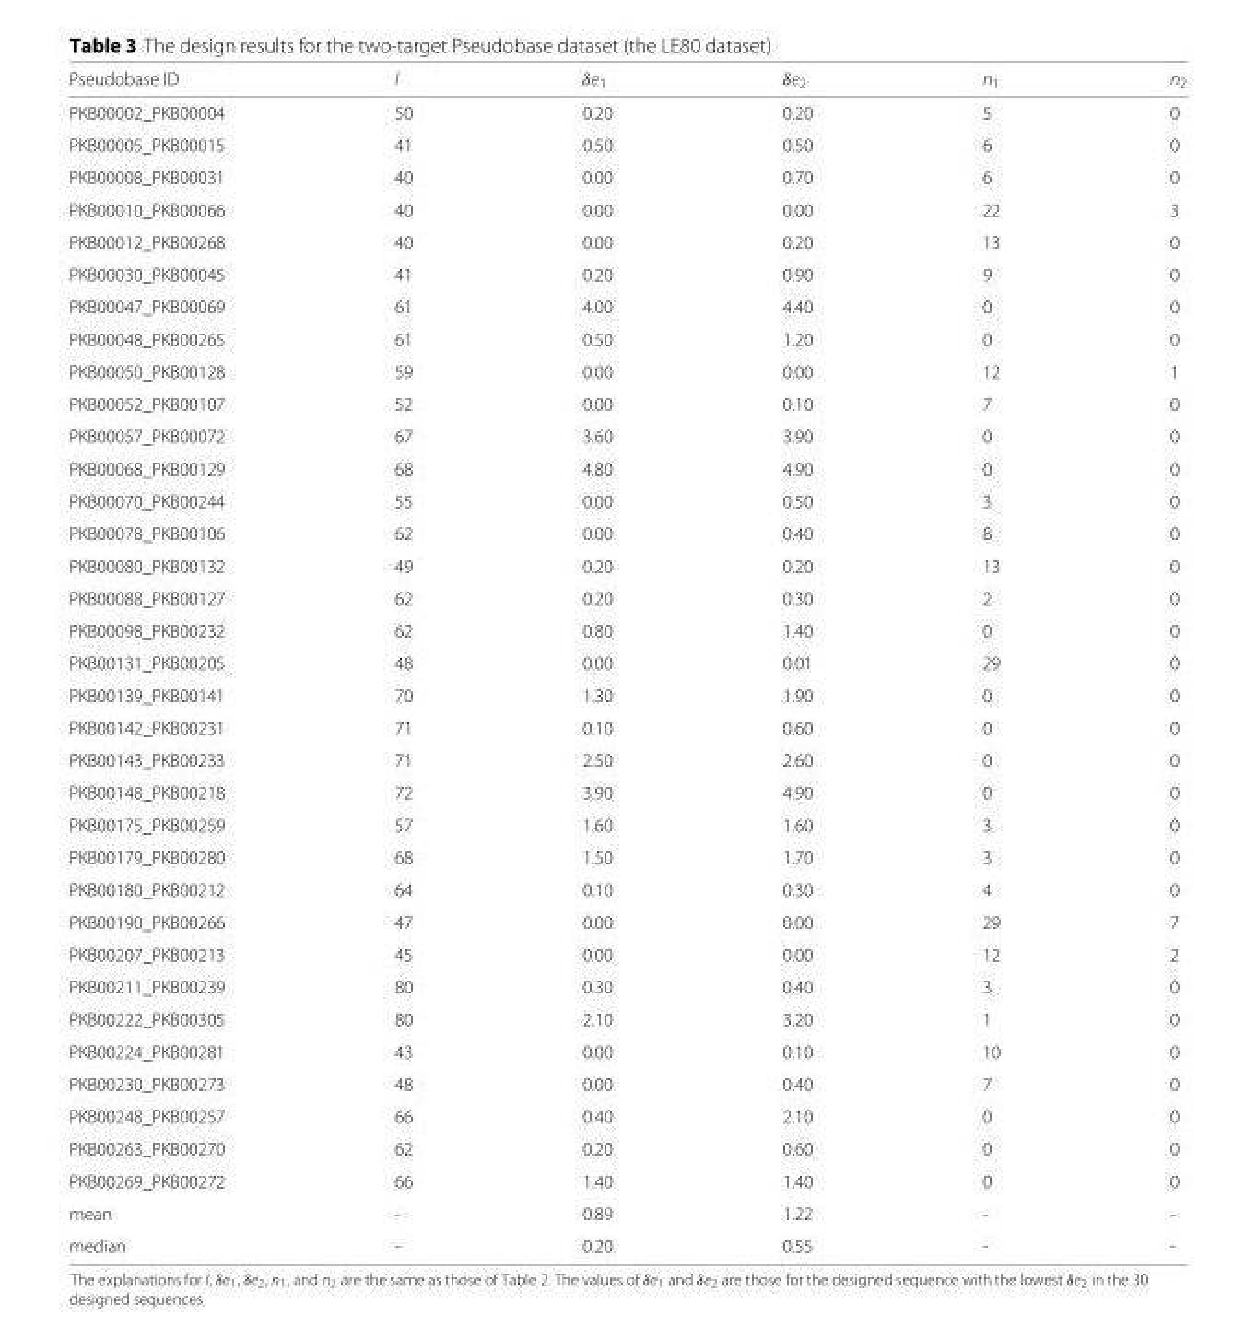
<table><thead><tr><td>Pseudobase ID</td><td>l</td><td>δe<sub>1</sub></td><td>δe<sub>2</sub></td><td>n<sub>1</sub></td><td>n<sub>2</sub></td></tr></thead><tbody><tr><td>PKB00002_PKB00004</td><td>50</td><td>0.20</td><td>0.20</td><td>5</td><td>0</td></tr><tr><td>PKB00005_PKB00015</td><td>41</td><td>0.50</td><td>0.50</td><td>6</td><td>0</td></tr><tr><td>PKB00008_PKB00031</td><td>40</td><td>0.00</td><td>0.70</td><td>6</td><td>0</td></tr><tr><td>PKB00010_PKB00066</td><td>40</td><td>0.00</td><td>0.00</td><td>22</td><td>3</td></tr><tr><td>PKB00012_PKB00268</td><td>40</td><td>0.00</td><td>0.20</td><td>13</td><td>0</td></tr><tr><td>PKB00030_PKB00045</td><td>41</td><td>0.20</td><td>0.90</td><td>9</td><td>0</td></tr><tr><td>PKB00047_PKB00069</td><td>61</td><td>4.00</td><td>4.40</td><td>0</td><td>0</td></tr><tr><td>PKB00048_PKB00265</td><td>61</td><td>0.50</td><td>1.20</td><td>0</td><td>0</td></tr><tr><td>PKB00050_PKB00128</td><td>59</td><td>0.00</td><td>0.00</td><td>12</td><td>1</td></tr><tr><td>PKB00052_PKB00107</td><td>52</td><td>0.00</td><td>0.10</td><td>7</td><td>0</td></tr><tr><td>PKB00057_PKB00072</td><td>67</td><td>3.60</td><td>3.90</td><td>0</td><td>0</td></tr><tr><td>PKB00068_PKB00129</td><td>68</td><td>4.80</td><td>4.90</td><td>0</td><td>0</td></tr><tr><td>PKB00070_PKB00244</td><td>55</td><td>0.00</td><td>0.50</td><td>3</td><td>0</td></tr><tr><td>PKB00078_PKB00106</td><td>62</td><td>0.00</td><td>0.40</td><td>8</td><td>0</td></tr><tr><td>PKB00080_PKB00132</td><td>49</td><td>0.20</td><td>0.20</td><td>13</td><td>0</td></tr><tr><td>PKB00088_PKB00127</td><td>62</td><td>0.20</td><td>0.30</td><td>2</td><td>0</td></tr><tr><td>PKB00098_PKB00232</td><td>62</td><td>0.80</td><td>1.40</td><td>0</td><td>0</td></tr><tr><td>PKB00131_PKB00205</td><td>48</td><td>0.00</td><td>0.01</td><td>29</td><td>0</td></tr><tr><td>PKB00139_PKB00141</td><td>70</td><td>1.30</td><td>1.90</td><td>0</td><td>0</td></tr><tr><td>PKB00142_PKB00231</td><td>71</td><td>0.10</td><td>0.60</td><td>0</td><td>0</td></tr><tr><td>PKB00143_PKB00233</td><td>71</td><td>2.50</td><td>2.60</td><td>0</td><td>0</td></tr><tr><td>PKB00148_PKB00218</td><td>72</td><td>3.90</td><td>4.90</td><td>0</td><td>0</td></tr><tr><td>PKB00175_PKB00259</td><td>57</td><td>1.60</td><td>1.60</td><td>3</td><td>0</td></tr><tr><td>PKB00179_PKB00280</td><td>68</td><td>1.50</td><td>1.70</td><td>3</td><td>0</td></tr><tr><td>PKB00180_PKB00212</td><td>64</td><td>0.10</td><td>0.30</td><td>4</td><td>0</td></tr><tr><td>PKB00190_PKB00266</td><td>47</td><td>0.00</td><td>0.00</td><td>29</td><td>7</td></tr><tr><td>PKB00207_PKB00213</td><td>45</td><td>0.00</td><td>0.00</td><td>12</td><td>2</td></tr><tr><td>PKB00211_PKB00239</td><td>80</td><td>0.30</td><td>0.40</td><td>3</td><td>0</td></tr><tr><td>PKB00222_PKB00305</td><td>80</td><td>2.10</td><td>3.20</td><td>1</td><td>0</td></tr><tr><td>PKB00224_PKB00281</td><td>43</td><td>0.00</td><td>0.10</td><td>10</td><td>0</td></tr><tr><td>PKB00230_PKB00273</td><td>48</td><td>0.00</td><td>0.40</td><td>7</td><td>0</td></tr><tr><td>PKB00248_PKB00257</td><td>66</td><td>0.40</td><td>2.10</td><td>0</td><td>0</td></tr><tr><td>PKB00263_PKB00270</td><td>62</td><td>0.20</td><td>0.60</td><td>0</td><td>0</td></tr><tr><td>PKB00269_PKB00272</td><td>66</td><td>1.40</td><td>1.40</td><td>0</td><td>0</td></tr><tr><td>mean</td><td>-</td><td>0.89</td><td>1.22</td><td>-</td><td>-</td></tr><tr><td>median</td><td>-</td><td>0.20</td><td>0.55</td><td>-</td><td>-</td></tr></tbody></table>